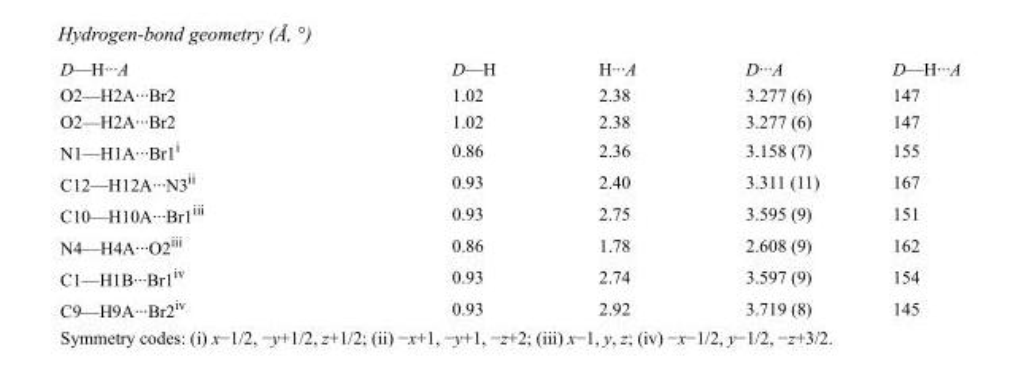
<table><tbody><tr><td>D—H···A</td><td>D—H</td><td>H···A</td><td>D···A</td><td>D—H···A</td></tr><tr><td>O2—H2A···Br2</td><td>1.02</td><td>2.38</td><td>3.277 (6)</td><td>147</td></tr><tr><td>O2—H2A···Br2</td><td>1.02</td><td>2.38</td><td>3.277 (6)</td><td>147</td></tr><tr><td>N1—H1A···Br1<sup>i</sup></td><td>0.86</td><td>2.36</td><td>3.158 (7)</td><td>155</td></tr><tr><td>C12—H12A···N3<sup>ii</sup></td><td>0.93</td><td>2.40</td><td>3.311 (11)</td><td>167</td></tr><tr><td>C10—H10A···Br1<sup>iii</sup></td><td>0.93</td><td>2.75</td><td>3.595 (9)</td><td>151</td></tr><tr><td>N4—H4A···O2<sup>iii</sup></td><td>0.86</td><td>1.78</td><td>2.608 (9)</td><td>162</td></tr><tr><td>C1—H1B···Br1<sup>iv</sup></td><td>0.93</td><td>2.74</td><td>3.597 (9)</td><td>154</td></tr><tr><td>C9—H9A···Br2<sup>iv</sup></td><td>0.93</td><td>2.92</td><td>3.719 (8)</td><td>145</td></tr></tbody></table>